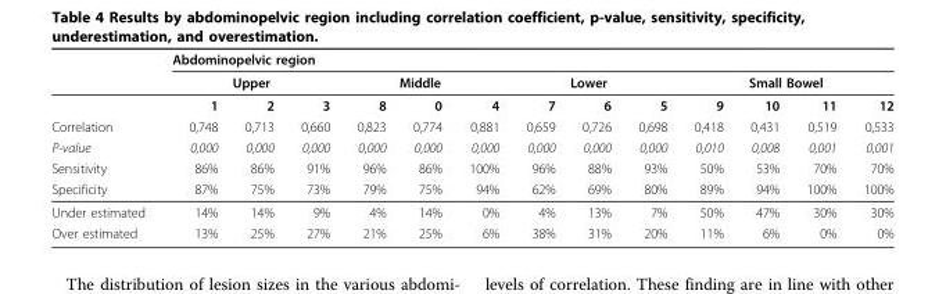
<table><thead><tr><td rowspan="3"></td><td colspan="13">Abdominopelvic region</td></tr><tr><td colspan="3">Upper</td><td colspan="3">Middle</td><td colspan="3">Lower</td><td colspan="4">Small Bowel</td></tr><tr><td>1</td><td>2</td><td>3</td><td>8</td><td>0</td><td>4</td><td>7</td><td>6</td><td>5</td><td>9</td><td>10</td><td>11</td><td>12</td></tr></thead><tbody><tr><td>Correlation</td><td>0,748</td><td>0,713</td><td>0,660</td><td>0,823</td><td>0,774</td><td>0,881</td><td>0,659</td><td>0,726</td><td>0,698</td><td>0,418</td><td>0,431</td><td>0,519</td><td>0,533</td></tr><tr><td>P-value</td><td>0,000</td><td>0,000</td><td>0,000</td><td>0,000</td><td>0,000</td><td>0,000</td><td>0,000</td><td>0,000</td><td>0,000</td><td>0,010</td><td>0,008</td><td>0,001</td><td>0,001</td></tr><tr><td>Sensitivity</td><td>86%</td><td>86%</td><td>91%</td><td>96%</td><td>86%</td><td>100%</td><td>96%</td><td>88%</td><td>93%</td><td>50%</td><td>53%</td><td>70%</td><td>70%</td></tr><tr><td>Specificity</td><td>87%</td><td>75%</td><td>73%</td><td>79%</td><td>75%</td><td>94%</td><td>62%</td><td>69%</td><td>80%</td><td>89%</td><td>94%</td><td>100%</td><td>100%</td></tr><tr><td>Under estimated</td><td>14%</td><td>14%</td><td>9%</td><td>4%</td><td>14%</td><td>0%</td><td>4%</td><td>13%</td><td>7%</td><td>50%</td><td>47%</td><td>30%</td><td>30%</td></tr><tr><td>Over estimated</td><td>13%</td><td>25%</td><td>27%</td><td>21%</td><td>25%</td><td>6%</td><td>38%</td><td>31%</td><td>20%</td><td>11%</td><td>6%</td><td>0%</td><td>0%</td></tr></tbody></table>